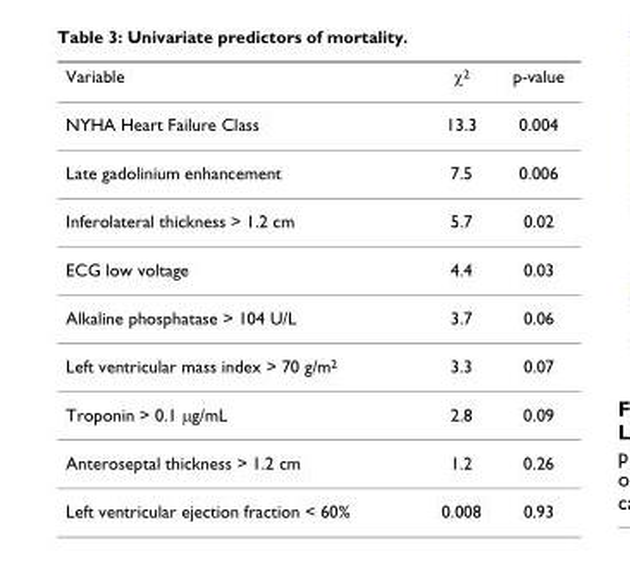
<table><thead><tr><td>Variable</td><td>χ<sup>2</sup></td><td>p-value</td></tr></thead><tbody><tr><td>NYHA Heart Failure Class</td><td>13.3</td><td>0.004</td></tr><tr><td>Late gadolinium enhancement</td><td>7.5</td><td>0.006</td></tr><tr><td>Inferolateral thickness &gt; 1.2 cm</td><td>5.7</td><td>0.02</td></tr><tr><td>ECG low voltage</td><td>4.4</td><td>0.03</td></tr><tr><td>Alkaline phosphatase &gt; 104 U/L</td><td>3.7</td><td>0.06</td></tr><tr><td>Left ventricular mass index &gt; 70 g/m<sup>2</sup></td><td>3.3</td><td>0.07</td></tr><tr><td>Troponin &gt; 0.1 μg/mL</td><td>2.8</td><td>0.09</td></tr><tr><td>Anteroseptal thickness &gt; 1.2 cm</td><td>1.2</td><td>0.26</td></tr><tr><td>Left ventricular ejection fraction &lt; 60%</td><td>0.008</td><td>0.93</td></tr></tbody></table>